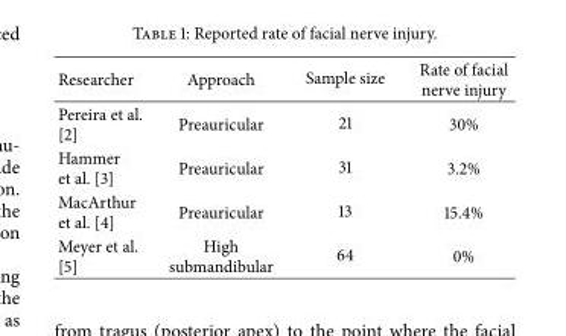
<table><thead><tr><td>Researcher</td><td>Approach</td><td>Sample size</td><td>Rate of facial nerve injury</td></tr></thead><tbody><tr><td>Pereira et al. [2]</td><td>Preauricular</td><td>21</td><td>30%</td></tr><tr><td>Hammer et al. [3]</td><td>Preauricular</td><td>31</td><td>3.2%</td></tr><tr><td>MacArthur et al. [4]</td><td>Preauricular</td><td>13</td><td>15.4%</td></tr><tr><td>Meyer et al. [5]</td><td>High submandibular</td><td>64</td><td>0%</td></tr></tbody></table>